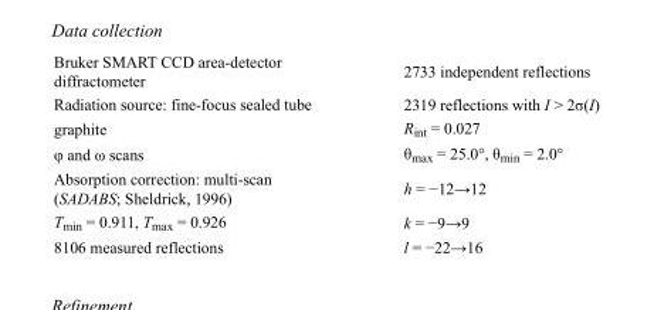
<table><tbody><tr><td>Bruker SMART CCD area-detector diffractometer</td><td>2733 independent reflections</td></tr><tr><td>Radiation source: fine-focus sealed tube</td><td>2319 reflections with I &gt; 2σ(I)</td></tr><tr><td>graphite</td><td>R<sub>int</sub> = 0.027</td></tr><tr><td>φ and ω scans</td><td>θ<sub>max</sub> = 25.0°, θ<sub>min</sub> = 2.0°</td></tr><tr><td>Absorption correction: multi-scan (SADABS; Sheldrick, 1996)</td><td>h = −12→12</td></tr><tr><td>T<sub>min</sub> = 0.911, T<sub>max</sub> = 0.926</td><td>k = −9→9</td></tr><tr><td>8106 measured reflections</td><td>l = −22→16</td></tr></tbody></table>